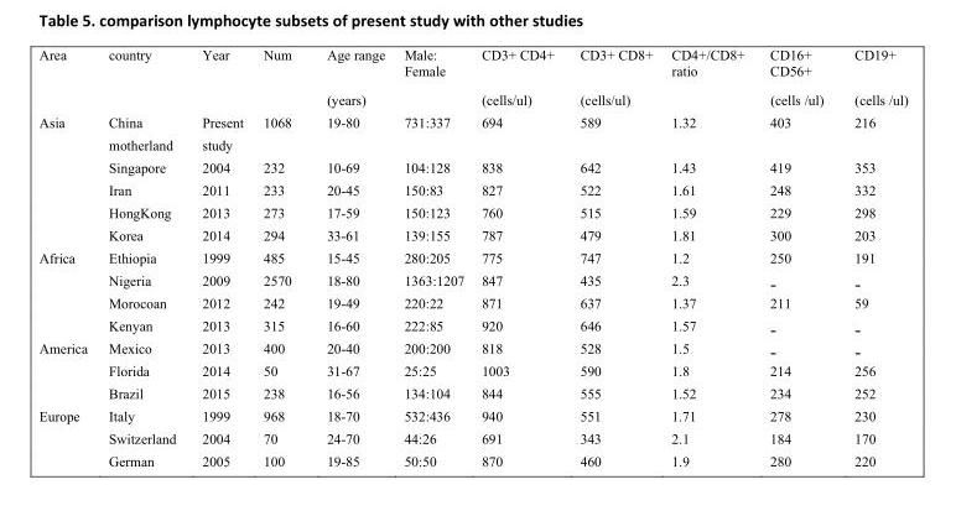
<table><thead><tr><td rowspan="2">Area</td><td rowspan="2">country</td><td rowspan="2">Year</td><td rowspan="2">Num</td><td rowspan="2">Age range (years)</td><td rowspan="2">Male: Female</td><td rowspan="2">CD3+ CD4+ (cells/ul)</td><td rowspan="2">CD3+ CD8+ (cells/ul)</td><td rowspan="2">CD4+/CD8+ ratio</td><td rowspan="2">CD16+ CD56+ (cells /ul)</td><td rowspan="2">CD19+ (cells /ul)</td></tr><tr></tr></thead><tbody><tr><td rowspan="6">Asia</td><td>China</td><td>Present</td><td>1068</td><td>19-80</td><td>731:337</td><td>694</td><td>589</td><td>1.32</td><td>403</td><td>216</td></tr><tr><td>motherland</td><td>study</td><td></td><td></td><td></td><td></td><td></td><td></td><td></td><td></td></tr><tr><td>Singapore</td><td>2004</td><td>232</td><td>10-69</td><td>104:128</td><td>838</td><td>642</td><td>1.43</td><td>419</td><td>353</td></tr><tr><td>Iran</td><td>2011</td><td>233</td><td>20-45</td><td>150:83</td><td>827</td><td>522</td><td>1.61</td><td>248</td><td>332</td></tr><tr><td>HongKong</td><td>2013</td><td>273</td><td>17-59</td><td>150:123</td><td>760</td><td>515</td><td>1.59</td><td>229</td><td>298</td></tr><tr><td>Korea</td><td>2014</td><td>294</td><td>33-61</td><td>139:155</td><td>787</td><td>479</td><td>1.81</td><td>300</td><td>203</td></tr><tr><td rowspan="4">Africa</td><td>Ethiopia</td><td>1999</td><td>485</td><td>15-45</td><td>280:205</td><td>775</td><td>747</td><td>1.2</td><td>250</td><td>191</td></tr><tr><td>Nigeria</td><td>2009</td><td>2570</td><td>18-80</td><td>1363:1207</td><td>847</td><td>435</td><td>2.3</td><td>-</td><td>-</td></tr><tr><td>Morocoan</td><td>2012</td><td>242</td><td>19-49</td><td>220:22</td><td>871</td><td>637</td><td>1.37</td><td>211</td><td>59</td></tr><tr><td>Kenyan</td><td>2013</td><td>315</td><td>16-60</td><td>222:85</td><td>920</td><td>646</td><td>1.57</td><td>-</td><td>-</td></tr><tr><td rowspan="3">America</td><td>Mexico</td><td>2013</td><td>400</td><td>20-40</td><td>200:200</td><td>818</td><td>528</td><td>1.5</td><td>-</td><td>-</td></tr><tr><td>Florida</td><td>2014</td><td>50</td><td>31-67</td><td>25:25</td><td>1003</td><td>590</td><td>1.8</td><td>214</td><td>256</td></tr><tr><td>Brazil</td><td>2015</td><td>238</td><td>16-56</td><td>134:104</td><td>844</td><td>555</td><td>1.52</td><td>234</td><td>252</td></tr><tr><td rowspan="3">Europe</td><td>Italy</td><td>1999</td><td>968</td><td>18-70</td><td>532:436</td><td>940</td><td>551</td><td>1.71</td><td>278</td><td>230</td></tr><tr><td>Switzerland</td><td>2004</td><td>70</td><td>24-70</td><td>44:26</td><td>691</td><td>343</td><td>2.1</td><td>184</td><td>170</td></tr><tr><td>German</td><td>2005</td><td>100</td><td>19-85</td><td>50:50</td><td>870</td><td>460</td><td>1.9</td><td>280</td><td>220</td></tr></tbody></table>